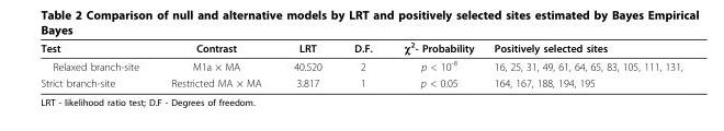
<table><thead><tr><td>Test</td><td>Contrast</td><td>LRT</td><td>D.F.</td><td>χ<sup>2</sup>- Probability</td><td>Positively selected sites</td></tr></thead><tbody><tr><td>Relaxed branch-site</td><td>M1a × MA</td><td>40.520</td><td>2</td><td>p &lt; 10<sup>-8</sup></td><td>16, 25, 31, 49, 61, 64, 65, 83, 105, 111, 131,</td></tr><tr><td>Strict branch-site</td><td>Restricted MA × MA</td><td>3.817</td><td>1</td><td>p &lt; 0.05</td><td>164, 167, 188, 194, 195</td></tr></tbody></table>